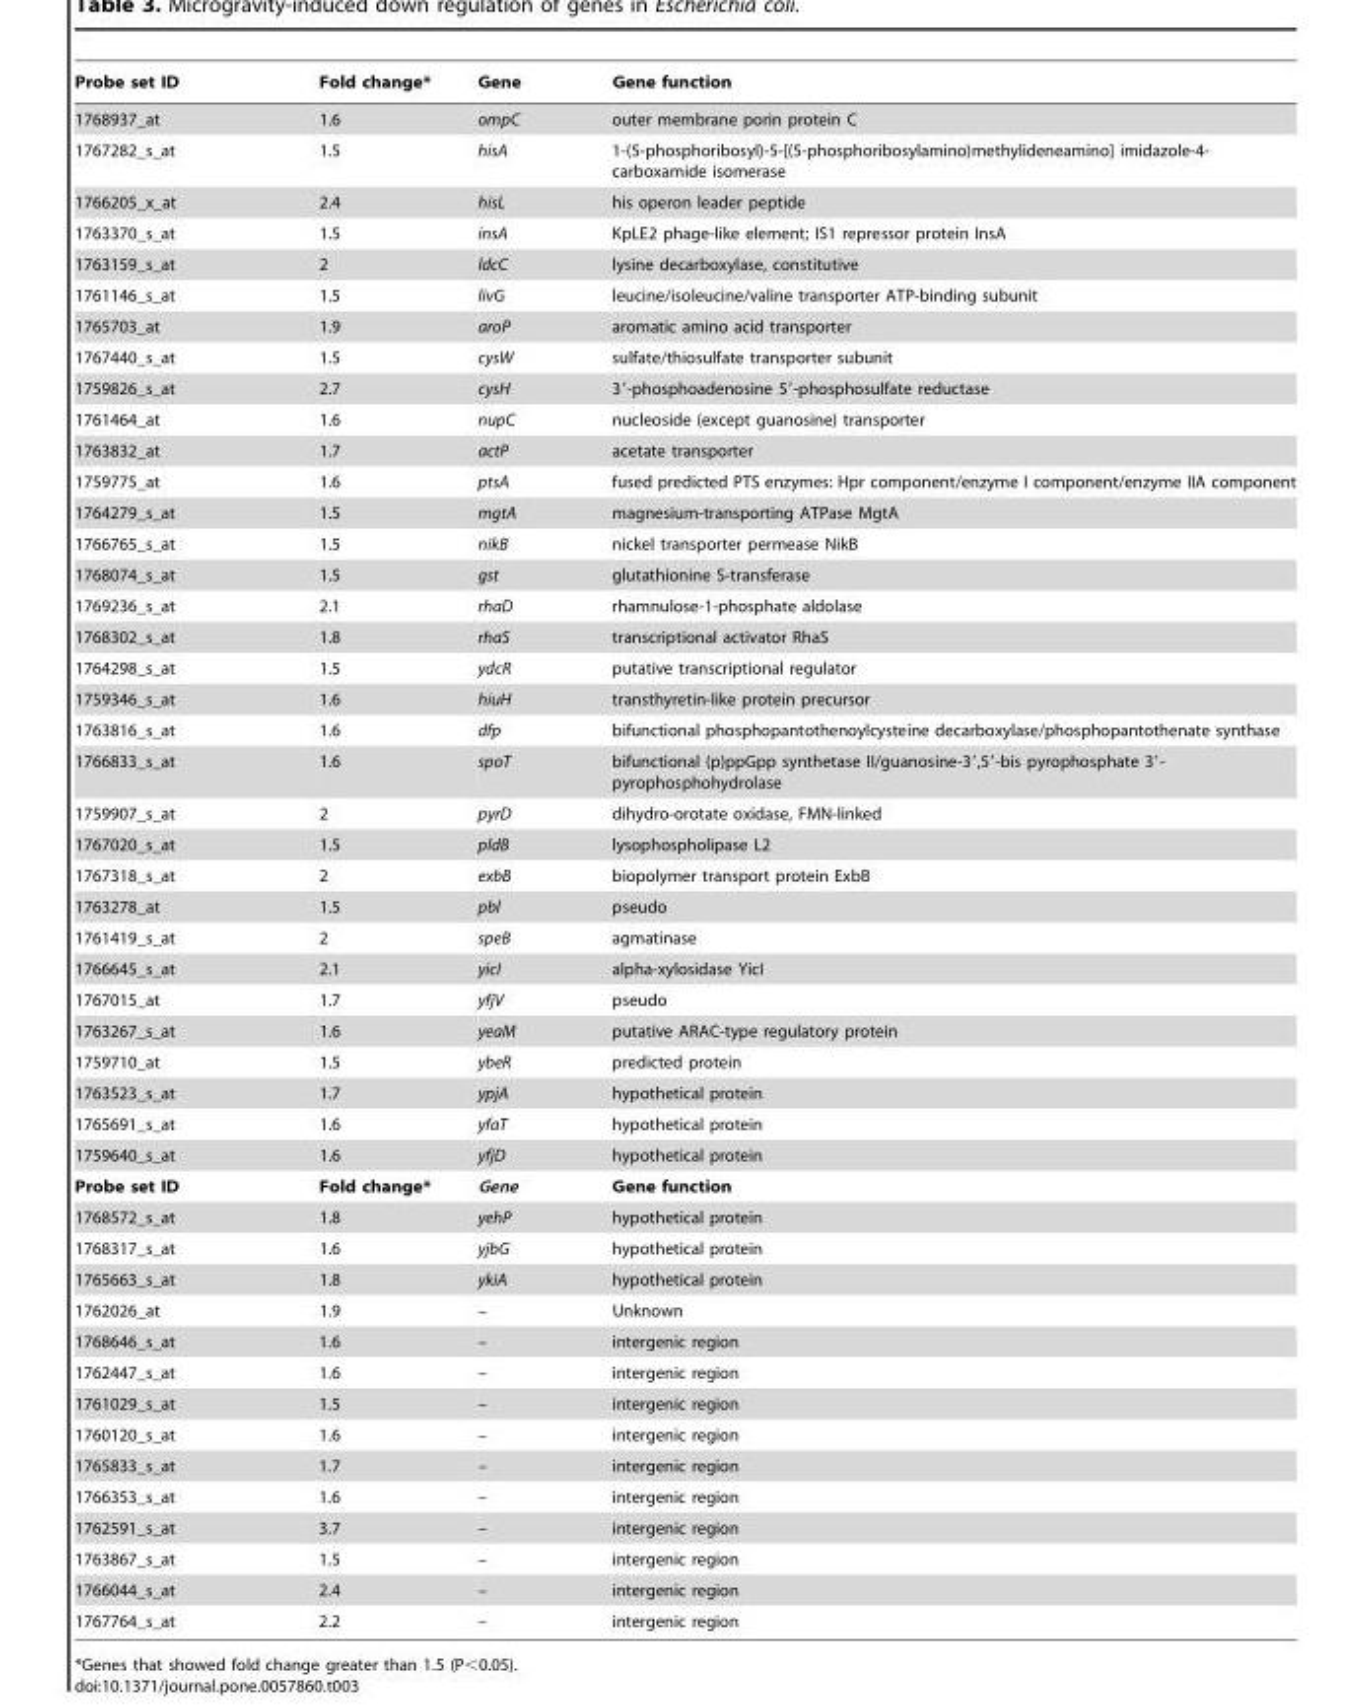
<table><thead><tr><td>Probe set ID</td><td>Fold change*</td><td>Gene</td><td>Gene function</td></tr></thead><tbody><tr><td>1768937_at</td><td>1.6</td><td>ompC</td><td>outer membrane porin protein C</td></tr><tr><td>1767282_s_at</td><td>1.5</td><td>hisA</td><td>1-(5-phosphoribosyl)-5-[(5-phosphoribosylamino)methylideneamino] imidazole-4- carboxamide isomerase</td></tr><tr><td>1766205_x_at</td><td>2.4</td><td>hisL</td><td>his operon leader peptide</td></tr><tr><td>1763370_s_at</td><td>1.5</td><td>insA</td><td>KpLE2 phage-like element; IS1 repressor protein InsA</td></tr><tr><td>1763159_s_at</td><td>2</td><td>ldcC</td><td>lysine decarboxylase, constitutive</td></tr><tr><td>1761146_s_at</td><td>1.5</td><td>livG</td><td>leucine/isoleucine/valine transporter ATP-binding subunit</td></tr><tr><td>1765703_at</td><td>1.9</td><td>aroP</td><td>aromatic amino acid transporter</td></tr><tr><td>1767440_s_at</td><td>1.5</td><td>cysW</td><td>sulfate/thiosulfate transporter subunit</td></tr><tr><td>1759826_s_at</td><td>2.7</td><td>cysH</td><td>3′-phosphoadenosine 5′-phosphosulfate reductase</td></tr><tr><td>1761464_at</td><td>1.6</td><td>nupC</td><td>nucleoside (except guanosine) transporter</td></tr><tr><td>1763832_at</td><td>1.7</td><td>actP</td><td>acetate transporter</td></tr><tr><td>1759775_at</td><td>1.6</td><td>ptsA</td><td>fused predicted PTS enzymes: Hpr component/enzyme I component/enzyme IIA component</td></tr><tr><td>1764279_s_at</td><td>1.5</td><td>mgtA</td><td>magnesium-transporting ATPase MgtA</td></tr><tr><td>1766765_s_at</td><td>1.5</td><td>nikB</td><td>nickel transporter permease NikB</td></tr><tr><td>1768074_s_at</td><td>1.5</td><td>gst</td><td>glutathionine S-transferase</td></tr><tr><td>1769236_s_at</td><td>2.1</td><td>rhaD</td><td>rhamnulose-1-phosphate aldolase</td></tr><tr><td>1768302_s_at</td><td>1.8</td><td>rhaS</td><td>transcriptional activator RhaS</td></tr><tr><td>1764298_s_at</td><td>1.5</td><td>ydcR</td><td>putative transcriptional regulator</td></tr><tr><td>1759346_s_at</td><td>1.6</td><td>hiuH</td><td>transthyretin-like protein precursor</td></tr><tr><td>1763816_s_at</td><td>1.6</td><td>dfp</td><td>bifunctional phosphopantothenoylcysteine decarboxylase/phosphopantothenate synthase</td></tr><tr><td>1766833_s_at</td><td>1.6</td><td>spoT</td><td>bifunctional (p)ppGpp synthetase II/guanosine-3′,5′-bis pyrophosphate 3′- pyrophosphohydrolase</td></tr><tr><td>1759907_s_at</td><td>2</td><td>pyrD</td><td>dihydro-orotate oxidase, FMN-linked</td></tr><tr><td>1767020_s_at</td><td>1.5</td><td>pldB</td><td>lysophospholipase L2</td></tr><tr><td>1767318_s_at</td><td>2</td><td>exbB</td><td>biopolymer transport protein ExbB</td></tr><tr><td>1763278_at</td><td>1.5</td><td>pbl</td><td>pseudo</td></tr><tr><td>1761419_s_at</td><td>2</td><td>speB</td><td>agmatinase</td></tr><tr><td>1766645_s_at</td><td>2.1</td><td>yicI</td><td>alpha-xylosidase YicI</td></tr><tr><td>1767015_at</td><td>1.7</td><td>yfjV</td><td>pseudo</td></tr><tr><td>1763267_s_at</td><td>1.6</td><td>yeaM</td><td>putative ARAC-type regulatory protein</td></tr><tr><td>1759710_at</td><td>1.5</td><td>ybeR</td><td>predicted protein</td></tr><tr><td>1763523_s_at</td><td>1.7</td><td>ypjA</td><td>hypothetical protein</td></tr><tr><td>1765691_s_at</td><td>1.6</td><td>yfaT</td><td>hypothetical protein</td></tr><tr><td>1759640_s_at</td><td>1.6</td><td>yfjD</td><td>hypothetical protein</td></tr><tr><td>Probe set ID</td><td>Fold change*</td><td>Gene</td><td>Gene function</td></tr><tr><td>1768572_s_at</td><td>1.8</td><td>yehP</td><td>hypothetical protein</td></tr><tr><td>1768317_s_at</td><td>1.6</td><td>yjbG</td><td>hypothetical protein</td></tr><tr><td>1765663_s_at</td><td>1.8</td><td>ykiA</td><td>hypothetical protein</td></tr><tr><td>1762026_at</td><td>1.9</td><td>–</td><td>Unknown</td></tr><tr><td>1768646_s_at</td><td>1.6</td><td>–</td><td>intergenic region</td></tr><tr><td>1762447_s_at</td><td>1.6</td><td>–</td><td>intergenic region</td></tr><tr><td>1761029_s_at</td><td>1.5</td><td>–</td><td>intergenic region</td></tr><tr><td>1760120_s_at</td><td>1.6</td><td>–</td><td>intergenic region</td></tr><tr><td>1765833_s_at</td><td>1.7</td><td>–</td><td>intergenic region</td></tr><tr><td>1766353_s_at</td><td>1.6</td><td>–</td><td>intergenic region</td></tr><tr><td>1762591_s_at</td><td>3.7</td><td>–</td><td>intergenic region</td></tr><tr><td>1763867_s_at</td><td>1.5</td><td>–</td><td>intergenic region</td></tr><tr><td>1766044_s_at</td><td>2.4</td><td>–</td><td>intergenic region</td></tr><tr><td>1767764_s_at</td><td>2.2</td><td>–</td><td>intergenic region</td></tr></tbody></table>